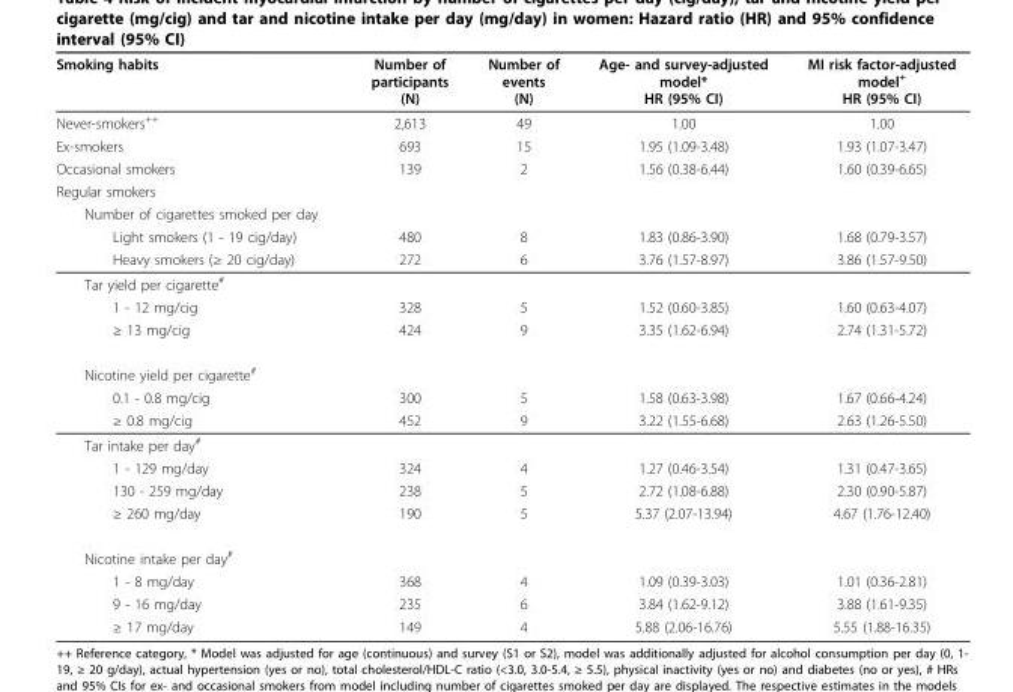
<table><thead><tr><td>Smoking habits</td><td>Number of participants (N)</td><td>Number of events (N)</td><td>Age- and survey-adjusted model* HR (95% CI)</td><td>MI risk factor-adjusted model<sup>+</sup> HR (95% CI)</td></tr></thead><tbody><tr><td>Never-smokers<sup>++</sup></td><td>2,613</td><td>49</td><td>1.00</td><td>1.00</td></tr><tr><td>Ex-smokers</td><td>693</td><td>15</td><td>1.95 (1.09-3.48)</td><td>1.93 (1.07-3.47)</td></tr><tr><td>Occasional smokers</td><td>139</td><td>2</td><td>1.56 (0.38-6.44)</td><td>1.60 (0.39-6.65)</td></tr><tr><td colspan="5">Regular smokers</td></tr><tr><td colspan="5">Number of cigarettes smoked per day</td></tr><tr><td>Light smokers (1 - 19 cig/day)</td><td>480</td><td>8</td><td>1.83 (0.86-3.90)</td><td>1.68 (0.79-3.57)</td></tr><tr><td>Heavy smokers (≥ 20 cig/day)</td><td>272</td><td>6</td><td>3.76 (1.57-8.97)</td><td>3.86 (1.57-9.50)</td></tr><tr><td colspan="5">Tar yield per cigarette<sup>#</sup></td></tr><tr><td>1 - 12 mg/cig</td><td>328</td><td>5</td><td>1.52 (0.60-3.85)</td><td>1.60 (0.63-4.07)</td></tr><tr><td>≥ 13 mg/cig</td><td>424</td><td>9</td><td>3.35 (1.62-6.94)</td><td>2.74 (1.31-5.72)</td></tr><tr><td colspan="5">Nicotine yield per cigarette<sup>#</sup></td></tr><tr><td>0.1 - 0.8 mg/cig</td><td>300</td><td>5</td><td>1.58 (0.63-3.98)</td><td>1.67 (0.66-4.24)</td></tr><tr><td>≥ 0.8 mg/cig</td><td>452</td><td>9</td><td>3.22 (1.55-6.68)</td><td>2.63 (1.26-5.50)</td></tr><tr><td colspan="5">Tar intake per day<sup>#</sup></td></tr><tr><td>1 - 129 mg/day</td><td>324</td><td>4</td><td>1.27 (0.46-3.54)</td><td>1.31 (0.47-3.65)</td></tr><tr><td>130 - 259 mg/day</td><td>238</td><td>5</td><td>2.72 (1.08-6.88)</td><td>2.30 (0.90-5.87)</td></tr><tr><td>≥ 260 mg/day</td><td>190</td><td>5</td><td>5.37 (2.07-13.94)</td><td>4.67 (1.76-12.40)</td></tr><tr><td colspan="5">Nicotine intake per day<sup>#</sup></td></tr><tr><td>1 - 8 mg/day</td><td>368</td><td>4</td><td>1.09 (0.39-3.03)</td><td>1.01 (0.36-2.81)</td></tr><tr><td>9 - 16 mg/day</td><td>235</td><td>6</td><td>3.84 (1.62-9.12)</td><td>3.88 (1.61-9.35)</td></tr><tr><td>≥ 17 mg/day</td><td>149</td><td>4</td><td>5.88 (2.06-16.76)</td><td>5.55 (1.88-16.35)</td></tr></tbody></table>